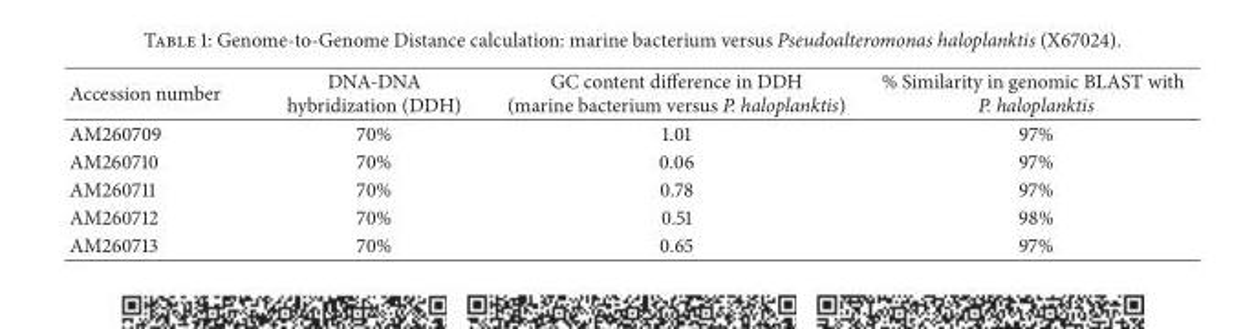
<table><thead><tr><td>Accession number</td><td>DNA-DNA hybridization (DDH)</td><td>GC content difference in DDH (marine bacterium versus P. haloplanktis)</td><td>% Similarity in genomic BLAST with P. haloplanktis</td></tr></thead><tbody><tr><td>AM260709</td><td>70%</td><td>1.01</td><td>97%</td></tr><tr><td>AM260710</td><td>70%</td><td>0.06</td><td>97%</td></tr><tr><td>AM260711</td><td>70%</td><td>0.78</td><td>97%</td></tr><tr><td>AM260712</td><td>70%</td><td>0.51</td><td>98%</td></tr><tr><td>AM260713</td><td>70%</td><td>0.65</td><td>97%</td></tr></tbody></table>